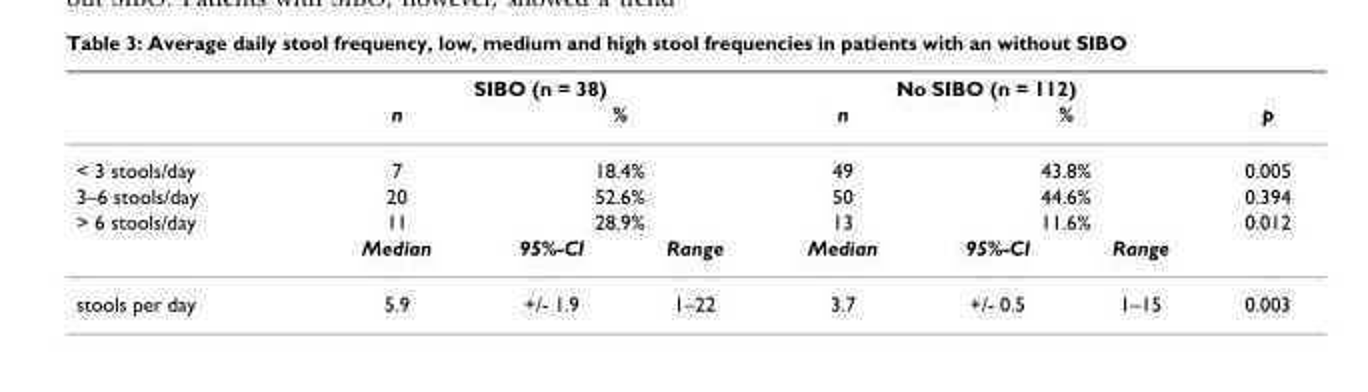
<table><thead><tr><td rowspan="2"></td><td colspan="3">SIBO (n = 38)</td><td colspan="3">No SIBO (n = 112)</td><td rowspan="2">p</td></tr><tr><td>n</td><td colspan="2">%</td><td>n</td><td colspan="2">%</td></tr></thead><tbody><tr><td>&lt; 3 stools/day</td><td>7</td><td colspan="2">18.4%</td><td>49</td><td colspan="2">43.8%</td><td>0.005</td></tr><tr><td>3–6 stools/day</td><td>20</td><td colspan="2">52.6%</td><td>50</td><td colspan="2">44.6%</td><td>0.394</td></tr><tr><td rowspan="2">&gt; 6 stools/day</td><td>11</td><td colspan="2">28.9%</td><td>13</td><td colspan="2">11.6%</td><td>0.012</td></tr><tr><td>Median</td><td>95%-CI</td><td>Range</td><td>Median</td><td>95%-CI</td><td>Range</td><td></td></tr><tr><td>stools per day</td><td>5.9</td><td>+/- 1.9</td><td>1–22</td><td>3.7</td><td>+/- 0.5</td><td>1–15</td><td>0.003</td></tr></tbody></table>